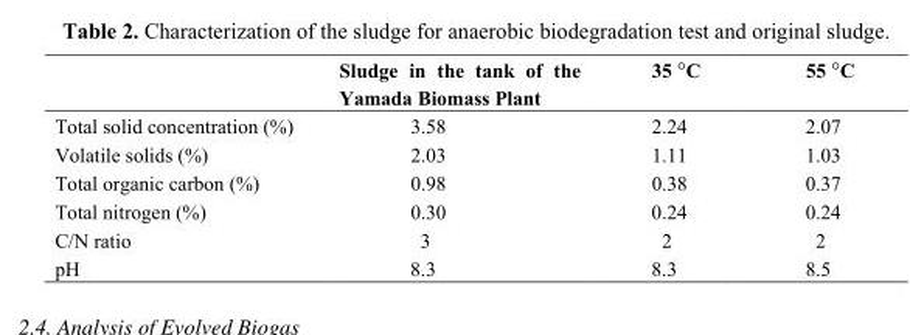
<table><thead><tr><td></td><td>Sludge in the tank of the Yamada Biomass Plant</td><td>35 °C</td><td>55 °C</td></tr></thead><tbody><tr><td>Total solid concentration (%)</td><td>3.58</td><td>2.24</td><td>2.07</td></tr><tr><td>Volatile solids (%)</td><td>2.03</td><td>1.11</td><td>1.03</td></tr><tr><td>Total organic carbon (%)</td><td>0.98</td><td>0.38</td><td>0.37</td></tr><tr><td>Total nitrogen (%)</td><td>0.30</td><td>0.24</td><td>0.24</td></tr><tr><td>C/N ratio</td><td>3</td><td>2</td><td>2</td></tr><tr><td>pH</td><td>8.3</td><td>8.3</td><td>8.5</td></tr></tbody></table>